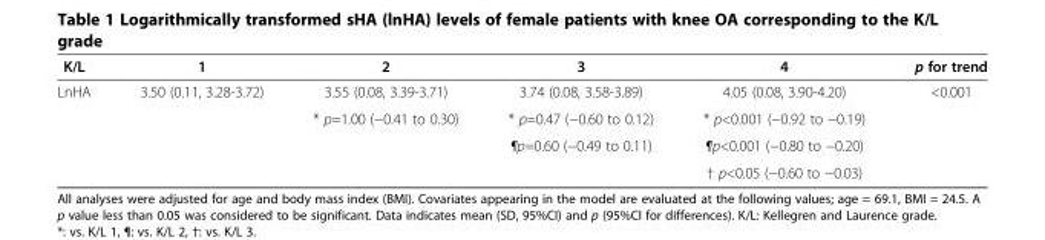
<table><thead><tr><td>K/L</td><td>1</td><td>2</td><td>3</td><td>4</td><td>p for trend</td></tr></thead><tbody><tr><td rowspan="4">LnHA</td><td>3.50 (0.11, 3.28-3.72)</td><td>3.55 (0.08, 3.39-3.71)</td><td>3.74 (0.08, 3.58-3.89)</td><td>4.05 (0.08, 3.90-4.20)</td><td>&lt;0.001</td></tr><tr><td></td><td>* p=1.00 (−0.41 to 0.30)</td><td>* p=0.47 (−0.60 to 0.12)</td><td>* p&lt;0.001 (−0.92 to −0.19)</td><td></td></tr><tr><td></td><td></td><td>¶p=0.60 (−0.49 to 0.11)</td><td>¶p&lt;0.001 (−0.80 to −0.20)</td><td></td></tr><tr><td></td><td></td><td></td><td>† p&lt;0.05 (−0.60 to −0.03)</td><td></td></tr></tbody></table>